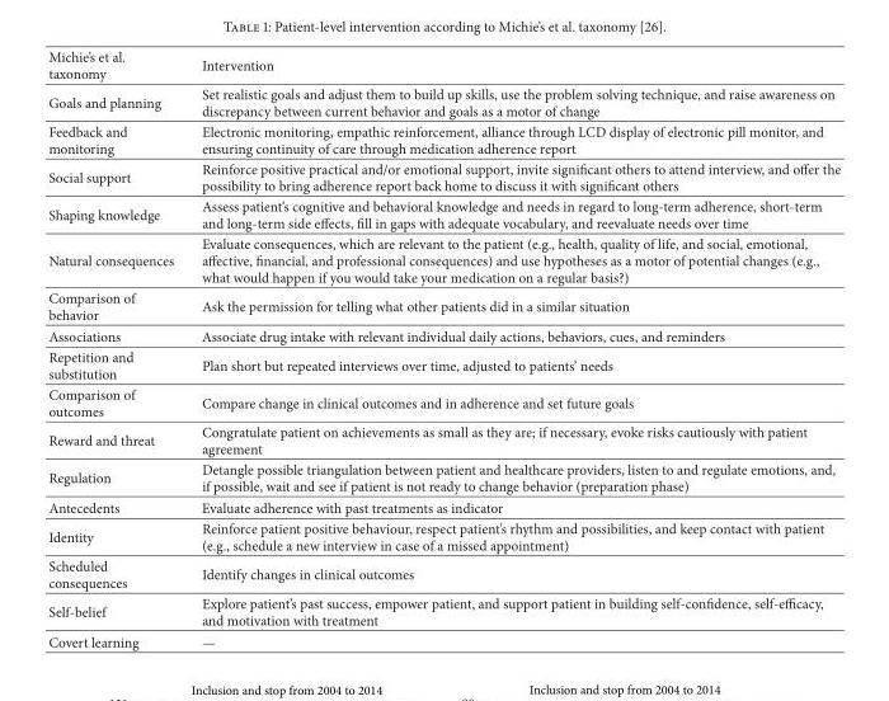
<table><thead><tr><td>Michie’s et al. taxonomy</td><td>Intervention</td></tr></thead><tbody><tr><td>Goals and planning</td><td>Set realistic goals and adjust them to build up skills, use the problem solving technique, and raise awareness on discrepancy between current behavior and goals as a motor of change</td></tr><tr><td>Feedback and monitoring</td><td>Electronic monitoring, empathic reinforcement, alliance through LCD display of electronic pill monitor, and ensuring continuity of care through medication adherence report</td></tr><tr><td>Social support</td><td>Reinforce positive practical and/or emotional support, invite significant others to attend interview, and offer the possibility to bring adherence report back home to discuss it with significant others</td></tr><tr><td>Shaping knowledge</td><td>Assess patient’s cognitive and behavioral knowledge and needs in regard to long-term adherence, short-term and long-term side effects, fill in gaps with adequate vocabulary, and reevaluate needs over time</td></tr><tr><td>Natural consequences</td><td>Evaluate consequences, which are relevant to the patient (e.g., health, quality of life, and social, emotional, affective, financial, and professional consequences) and use hypotheses as a motor of potential changes (e.g., what would happen if you would take your medication on a regular basis?)</td></tr><tr><td>Comparison of behavior</td><td>Ask the permission for telling what other patients did in a similar situation</td></tr><tr><td>Associations</td><td>Associate drug intake with relevant individual daily actions, behaviors, cues, and reminders</td></tr><tr><td>Repetition and substitution</td><td>Plan short but repeated interviews over time, adjusted to patients’ needs</td></tr><tr><td>Comparison of outcomes</td><td>Compare change in clinical outcomes and in adherence and set future goals</td></tr><tr><td>Reward and threat</td><td>Congratulate patient on achievements as small as they are; if necessary, evoke risks cautiously with patient agreement</td></tr><tr><td>Regulation</td><td>Detangle possible triangulation between patient and healthcare providers, listen to and regulate emotions, and, if possible, wait and see if patient is not ready to change behavior (preparation phase)</td></tr><tr><td>Antecedents</td><td>Evaluate adherence with past treatments as indicator</td></tr><tr><td>Identity</td><td>Reinforce patient positive behaviour, respect patient’s rhythm and possibilities, and keep contact with patient (e.g., schedule a new interview in case of a missed appointment)</td></tr><tr><td>Scheduled consequences</td><td>Identify changes in clinical outcomes</td></tr><tr><td>Self-belief</td><td>Explore patient’s past success, empower patient, and support patient in building self-confidence, self-efficacy, and motivation with treatment</td></tr><tr><td>Covert learning</td><td>—</td></tr></tbody></table>